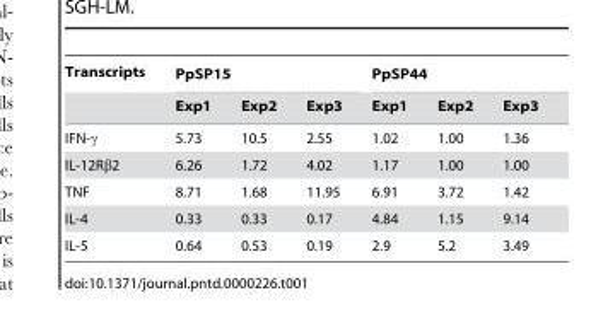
<table><thead><tr><td rowspan="2">Transcripts</td><td colspan="3">PpSP15</td><td colspan="3">PpSP44</td></tr><tr><td>Exp1</td><td>Exp2</td><td>Exp3</td><td>Exp1</td><td>Exp2</td><td>Exp3</td></tr></thead><tbody><tr><td>IFN-γ</td><td>5.73</td><td>10.5</td><td>2.55</td><td>1.02</td><td>1.00</td><td>1.36</td></tr><tr><td>IL-12Rβ2</td><td>6.26</td><td>1.72</td><td>4.02</td><td>1.17</td><td>1.00</td><td>1.00</td></tr><tr><td>TNF</td><td>8.71</td><td>1.68</td><td>11.95</td><td>6.91</td><td>3.72</td><td>1.42</td></tr><tr><td>IL-4</td><td>0.33</td><td>0.33</td><td>0.17</td><td>4.84</td><td>1.15</td><td>9.14</td></tr><tr><td>IL-5</td><td>0.64</td><td>0.53</td><td>0.19</td><td>2.9</td><td>5.2</td><td>3.49</td></tr></tbody></table>